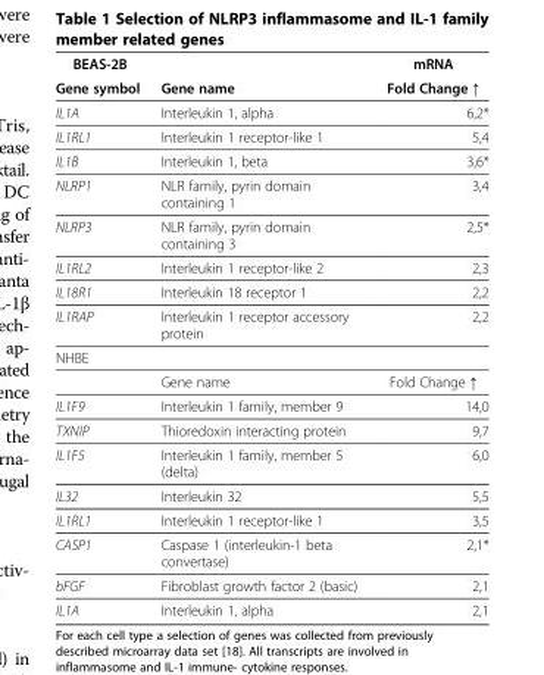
<table><thead><tr><td rowspan="2">BEAS-2B Gene symbol</td><td rowspan="2">Gene name</td><td rowspan="2">mRNA Fold Change ↑</td></tr><tr></tr></thead><tbody><tr><td>IL1A</td><td>Interleukin 1, alpha</td><td>6,2*</td></tr><tr><td>IL1RL1</td><td>Interleukin 1 receptor-like 1</td><td>5,4</td></tr><tr><td>IL1B</td><td>Interleukin 1, beta</td><td>3,6*</td></tr><tr><td>NLRP1</td><td>NLR family, pyrin domain containing 1</td><td>3,4</td></tr><tr><td>NLRP3</td><td>NLR family, pyrin domain containing 3</td><td>2,5*</td></tr><tr><td>IL1RL2</td><td>Interleukin 1 receptor-like 2</td><td>2,3</td></tr><tr><td>IL18R1</td><td>Interleukin 18 receptor 1</td><td>2,2</td></tr><tr><td>IL1RAP</td><td>Interleukin 1 receptor accessory protein</td><td>2,2</td></tr><tr><td colspan="3">NHBE</td></tr><tr><td></td><td>Gene name</td><td>Fold Change ↑</td></tr><tr><td>IL1F9</td><td>Interleukin 1 family, member 9</td><td>14,0</td></tr><tr><td>TXNIP</td><td>Thioredoxin interacting protein</td><td>9,7</td></tr><tr><td>IL1F5</td><td>Interleukin 1 family, member 5 (delta)</td><td>6,0</td></tr><tr><td>IL32</td><td>Interleukin 32</td><td>5,5</td></tr><tr><td>IL1RL1</td><td>Interleukin 1 receptor-like 1</td><td>3,5</td></tr><tr><td>CASP1</td><td>Caspase 1 (interleukin-1 beta convertase)</td><td>2,1*</td></tr><tr><td>bFGF</td><td>Fibroblast growth factor 2 (basic)</td><td>2,1</td></tr><tr><td>IL1A</td><td>Interleukin 1, alpha</td><td>2,1</td></tr></tbody></table>